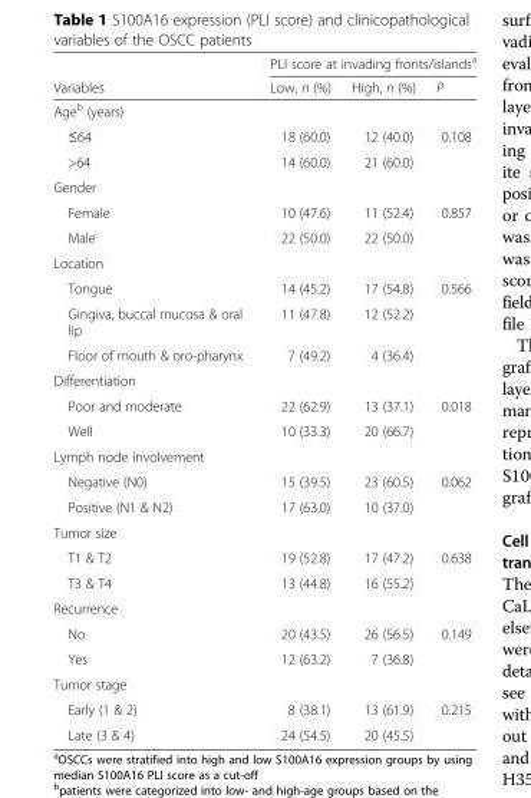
<table><thead><tr><td rowspan="2">Variables</td><td colspan="3">PLI score at invading fronts/islands<sup>a</sup></td></tr><tr><td>Low, n (%)</td><td>High, n (%)</td><td>P</td></tr></thead><tbody><tr><td colspan="4">Age<sup>b</sup> (years)</td></tr><tr><td>≤64</td><td>18 (60.0)</td><td>12 (40.0)</td><td>0.108</td></tr><tr><td>&gt;64</td><td>14 (60.0)</td><td>21 (60.0)</td><td></td></tr><tr><td colspan="4">Gender</td></tr><tr><td>Female</td><td>10 (47.6)</td><td>11 (52.4)</td><td>0.857</td></tr><tr><td>Male</td><td>22 (50.0)</td><td>22 (50.0)</td><td></td></tr><tr><td colspan="4">Location</td></tr><tr><td>Tongue</td><td>14 (45.2)</td><td>17 (54.8)</td><td>0.566</td></tr><tr><td>Gingiva, buccal mucosa &amp; oral lip</td><td>11 (47.8)</td><td>12 (52.2)</td><td></td></tr><tr><td>Floor of mouth &amp; oro-pharynx</td><td>7 (49.2)</td><td>4 (36.4)</td><td></td></tr><tr><td colspan="4">Differentiation</td></tr><tr><td>Poor and moderate</td><td>22 (62.9)</td><td>13 (37.1)</td><td>0.018</td></tr><tr><td>Well</td><td>10 (33.3)</td><td>20 (66.7)</td><td></td></tr><tr><td colspan="4">Lymph node involvement</td></tr><tr><td>Negative (N0)</td><td>15 (39.5)</td><td>23 (60.5)</td><td>0.062</td></tr><tr><td>Positive (N1 &amp; N2)</td><td>17 (63.0)</td><td>10 (37.0)</td><td></td></tr><tr><td colspan="4">Tumor size</td></tr><tr><td>T1 &amp; T2</td><td>19 (52.8)</td><td>17 (47.2)</td><td>0.638</td></tr><tr><td>T3 &amp; T4</td><td>13 (44.8)</td><td>16 (55.2)</td><td></td></tr><tr><td colspan="4">Recurrence</td></tr><tr><td>No</td><td>20 (43.5)</td><td>26 (56.5)</td><td>0.149</td></tr><tr><td>Yes</td><td>12 (63.2)</td><td>7 (36.8)</td><td></td></tr><tr><td colspan="4">Tumor stage</td></tr><tr><td>Early (1 &amp; 2)</td><td>8 (38.1)</td><td>13 (61.9)</td><td>0.215</td></tr><tr><td>Late (3 &amp; 4)</td><td>24 (54.5)</td><td>20 (45.5)</td><td></td></tr></tbody></table>